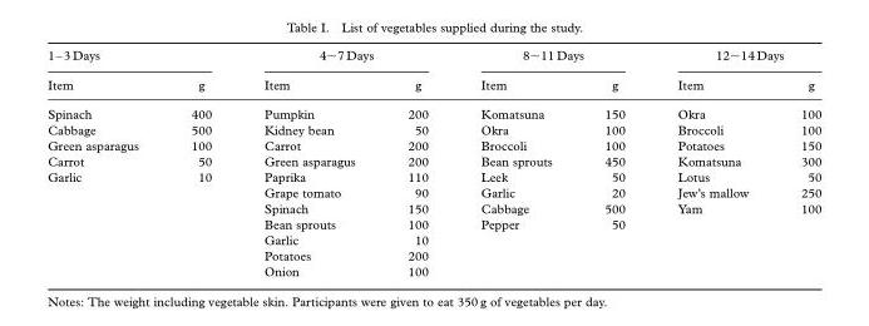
<table><thead><tr><td colspan="2">1–3 Days</td><td colspan="2">4∼7 Days</td><td colspan="2">8∼11 Days</td><td colspan="2">12∼14 Days</td></tr><tr><td>Item</td><td>g</td><td>Item</td><td>g</td><td>Item</td><td>g</td><td>Item</td><td>g</td></tr></thead><tbody><tr><td>Spinach</td><td>400</td><td>Pumpkin</td><td>200</td><td>Komatsuna</td><td>150</td><td>Okra</td><td>100</td></tr><tr><td>Cabbage</td><td>500</td><td>Kidney bean</td><td>50</td><td>Okra</td><td>100</td><td>Broccoli</td><td>100</td></tr><tr><td>Green asparagus</td><td>100</td><td>Carrot</td><td>200</td><td>Broccoli</td><td>100</td><td>Potatoes</td><td>150</td></tr><tr><td>Carrot</td><td>50</td><td>Green asparagus</td><td>200</td><td>Bean sprouts</td><td>450</td><td>Komatsuna</td><td>300</td></tr><tr><td rowspan="7">Garlic</td><td>10</td><td>Paprika</td><td>110</td><td>Leek</td><td>50</td><td>Lotus</td><td>50</td></tr><tr><td></td><td>Grape tomato</td><td>90</td><td>Garlic</td><td>20</td><td>Jew’s mallow</td><td>250</td></tr><tr><td></td><td>Spinach</td><td>150</td><td>Cabbage</td><td>500</td><td>Yam</td><td>100</td></tr><tr><td></td><td>Bean sprouts</td><td>100</td><td>Pepper</td><td>50</td><td></td><td></td></tr><tr><td></td><td>Garlic</td><td>10</td><td></td><td></td><td></td><td></td></tr><tr><td></td><td>Potatoes</td><td>200</td><td></td><td></td><td></td><td></td></tr><tr><td></td><td>Onion</td><td>100</td><td></td><td></td><td></td><td></td></tr></tbody></table>